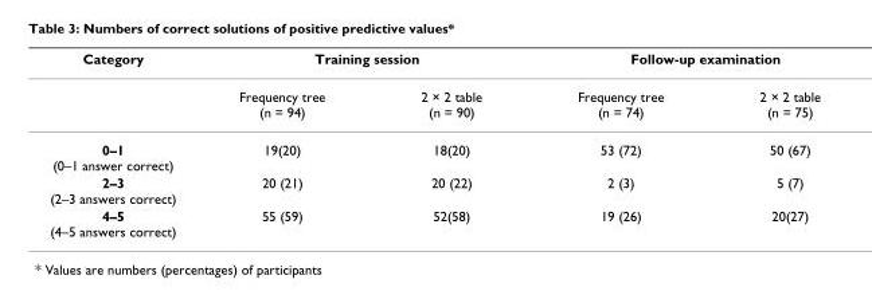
<table><thead><tr><td rowspan="2">Category</td><td colspan="2">Training session</td><td colspan="2">Follow-up examination</td></tr><tr><td>Frequency tree (n = 94)</td><td>2 × 2 table (n = 90)</td><td>Frequency tree (n = 74)</td><td>2 × 2 table (n = 75)</td></tr></thead><tbody><tr><td>0–1 (0–1 answer correct)</td><td>19(20)</td><td>18(20)</td><td>53 (72)</td><td>50 (67)</td></tr><tr><td>2–3 (2–3 answers correct)</td><td>20 (21)</td><td>20 (22)</td><td>2 (3)</td><td>5 (7)</td></tr><tr><td>4–5 (4–5 answers correct)</td><td>55 (59)</td><td>52(58)</td><td>19 (26)</td><td>20(27)</td></tr></tbody></table>